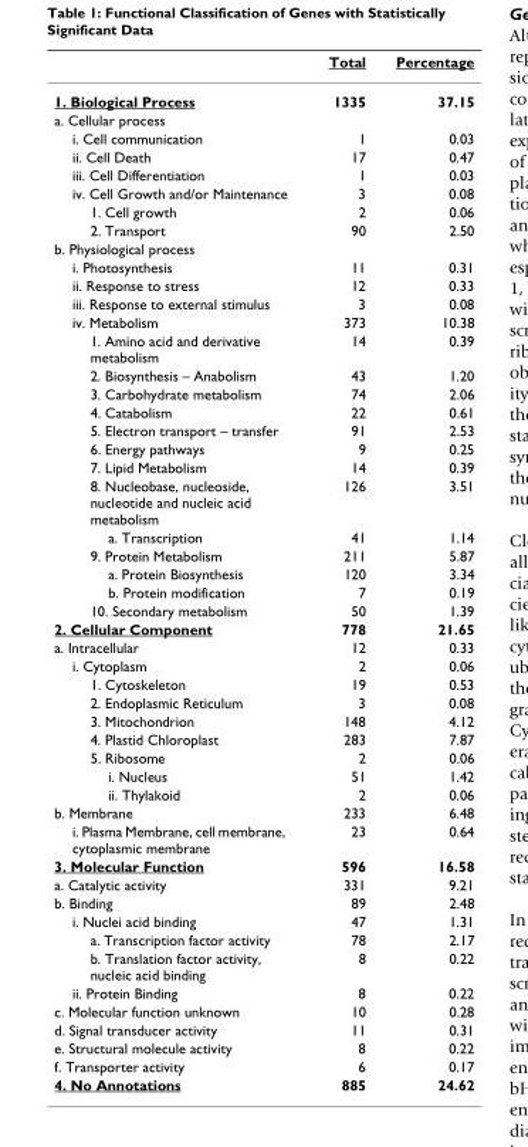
<table><thead><tr><td></td><td>Total</td><td>Percentage</td></tr></thead><tbody><tr><td>1. Biological Process</td><td>1335</td><td>37.15</td></tr><tr><td colspan="3">a. Cellular process</td></tr><tr><td>i. Cell communication</td><td>1</td><td>0.03</td></tr><tr><td>ii. Cell Death</td><td>17</td><td>0.47</td></tr><tr><td>iii. Cell Differentiation</td><td>1</td><td>0.03</td></tr><tr><td>iv. Cell Growth and/or Maintenance</td><td>3</td><td>0.08</td></tr><tr><td>1. Cell growth</td><td>2</td><td>0.06</td></tr><tr><td>2. Transport</td><td>90</td><td>2.50</td></tr><tr><td colspan="3">b. Physiological process</td></tr><tr><td>i. Photosynthesis</td><td>11</td><td>0.31</td></tr><tr><td>ii. Response to stress</td><td>12</td><td>0.33</td></tr><tr><td>iii. Response to external stimulus</td><td>3</td><td>0.08</td></tr><tr><td>iv. Metabolism</td><td>373</td><td>10.38</td></tr><tr><td>1. Amino acid and derivative metabolism</td><td>14</td><td>0.39</td></tr><tr><td>2. Biosynthesis – Anabolism</td><td>43</td><td>1.20</td></tr><tr><td>3. Carbohydrate metabolism</td><td>74</td><td>2.06</td></tr><tr><td>4. Catabolism</td><td>22</td><td>0.61</td></tr><tr><td>5. Electron transport – transfer</td><td>91</td><td>2.53</td></tr><tr><td>6. Energy pathways</td><td>9</td><td>0.25</td></tr><tr><td>7. Lipid Metabolism</td><td>14</td><td>0.39</td></tr><tr><td>8. Nucleobase, nucleoside, nucleotide and nucleic acid metabolism</td><td>126</td><td>3.51</td></tr><tr><td>a. Transcription</td><td>41</td><td>1.14</td></tr><tr><td>9. Protein Metabolism</td><td>211</td><td>5.87</td></tr><tr><td>a. Protein Biosynthesis</td><td>120</td><td>3.34</td></tr><tr><td>b. Protein modification</td><td>7</td><td>0.19</td></tr><tr><td>10. Secondary metabolism</td><td>50</td><td>1.39</td></tr><tr><td>2. Cellular Component</td><td>778</td><td>21.65</td></tr><tr><td>a. Intracellular</td><td>12</td><td>0.33</td></tr><tr><td>i. Cytoplasm</td><td>2</td><td>0.06</td></tr><tr><td>1. Cytoskeleton</td><td>19</td><td>0.53</td></tr><tr><td>2. Endoplasmic Reticulum</td><td>3</td><td>0.08</td></tr><tr><td>3. Mitochondrion</td><td>148</td><td>4.12</td></tr><tr><td>4. Plastid Chloroplast</td><td>283</td><td>7.87</td></tr><tr><td>5. Ribosome</td><td>2</td><td>0.06</td></tr><tr><td>i. Nucleus</td><td>51</td><td>1.42</td></tr><tr><td>ii. Thylakoid</td><td>2</td><td>0.06</td></tr><tr><td>b. Membrane</td><td>233</td><td>6.48</td></tr><tr><td>i. Plasma Membrane, cell membrane, cytoplasmic membrane</td><td>23</td><td>0.64</td></tr><tr><td>3. Molecular Function</td><td>596</td><td>16.58</td></tr><tr><td>a. Catalytic activity</td><td>331</td><td>9.21</td></tr><tr><td>b. Binding</td><td>89</td><td>2.48</td></tr><tr><td>i. Nuclei acid binding</td><td>47</td><td>1.31</td></tr><tr><td>a. Transcription factor activity</td><td>78</td><td>2.17</td></tr><tr><td>b. Translation factor activity, nucleic acid binding</td><td>8</td><td>0.22</td></tr><tr><td>ii. Protein Binding</td><td>8</td><td>0.22</td></tr><tr><td>c. Molecular function unknown</td><td>10</td><td>0.28</td></tr><tr><td>d. Signal transducer activity</td><td>11</td><td>0.31</td></tr><tr><td>e. Structural molecule activity</td><td>8</td><td>0.22</td></tr><tr><td>f. Transporter activity</td><td>6</td><td>0.17</td></tr><tr><td>4. No Annotations</td><td>885</td><td>24.62</td></tr></tbody></table>